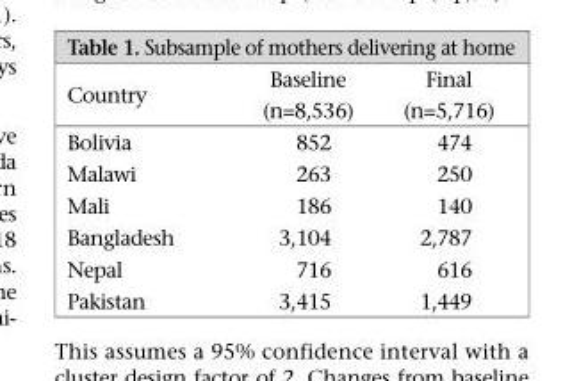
<table><thead><tr><td>Country</td><td>Baseline (n=8,536)</td><td>Final (n=5,716)</td></tr></thead><tbody><tr><td>Bolivia</td><td>852</td><td>474</td></tr><tr><td>Malawi</td><td>263</td><td>250</td></tr><tr><td>Mali</td><td>186</td><td>140</td></tr><tr><td>Bangladesh</td><td>3,104</td><td>2,787</td></tr><tr><td>Nepal</td><td>716</td><td>616</td></tr><tr><td>Pakistan</td><td>3,415</td><td>1,449</td></tr></tbody></table>